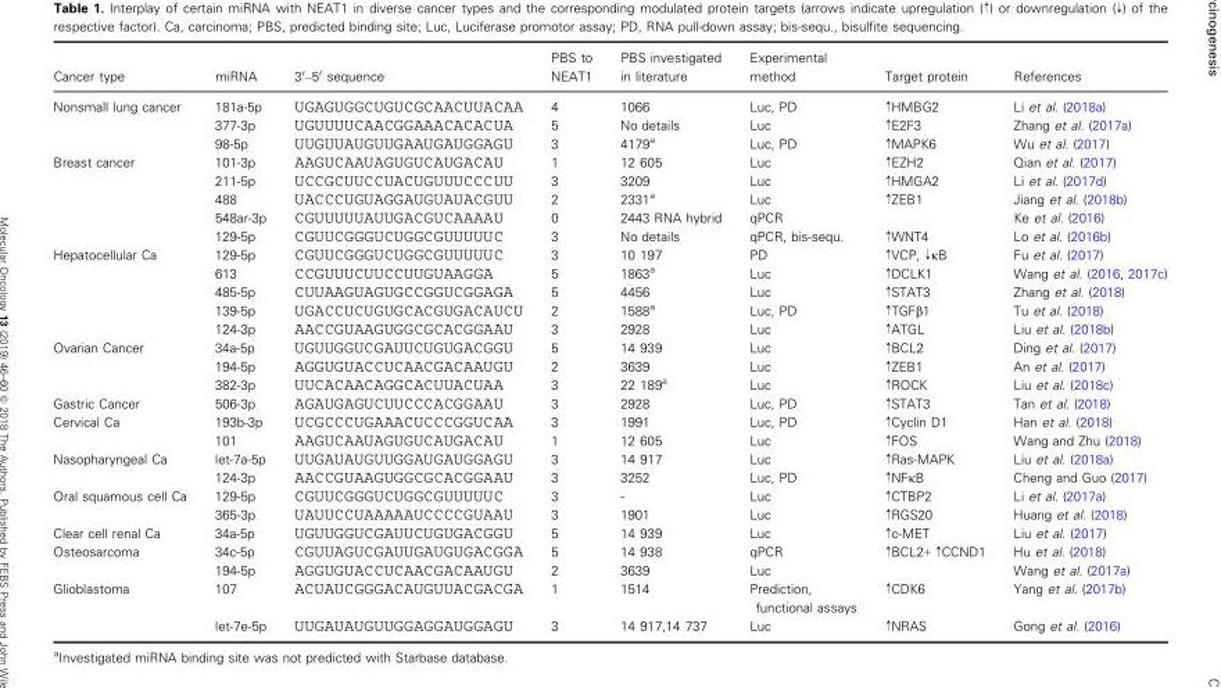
<table><thead><tr><td>Cancer type</td><td>miRNA</td><td>3′–5′ sequence</td><td>PBS to NEAT1</td><td>PBS investigated in literature</td><td>Experimental method</td><td>Target protein</td><td>References</td></tr></thead><tbody><tr><td rowspan="3">Nonsmall lung cancer</td><td>181a-5p</td><td>UGAGUGGCUGUCGCAACUUACAA</td><td>4</td><td>1066</td><td>Luc, PD</td><td>↑HMBG2</td><td>Li et al. (2018a)</td></tr><tr><td>377-3p</td><td>UGUUUUCAACGGAAACACACUA</td><td>5</td><td>No details</td><td>Luc</td><td>↑E2F3</td><td>Zhang et al. (2017a)</td></tr><tr><td>98-5p</td><td>UUGUUAUGUUGAAUGAUGGAGU</td><td>3</td><td>4179<sup>a</sup></td><td>Luc, PD</td><td>↑MAPK6</td><td>Wu et al. (2017)</td></tr><tr><td rowspan="5">Breast cancer</td><td>101-3p</td><td>AAGUCAAUAGUGUCAUGACAU</td><td>1</td><td>12 605</td><td>Luc</td><td>↑EZH2</td><td>Qian et al. (2017)</td></tr><tr><td>211-5p</td><td>UCCGCUUCCUACUGUUUCCCUU</td><td>3</td><td>3209</td><td>Luc</td><td>↑HMGA2</td><td>Li et al. (2017d)</td></tr><tr><td>488</td><td>UACCCUGUAGGAUGUAUACGUU</td><td>2</td><td>2331<sup>a</sup></td><td>Luc</td><td>↑ZEB1</td><td>Jiang et al. (2018b)</td></tr><tr><td>548ar-3p</td><td>CGUUUUUAUUGACGUCAAAAU</td><td>0</td><td>2443 RNA hybrid</td><td>qPCR</td><td></td><td>Ke et al. (2016)</td></tr><tr><td>129-5p</td><td>CGUUCGGGUCUGGCGUUUUUC</td><td>3</td><td>No details</td><td>qPCR, bis-sequ.</td><td>↑WNT4</td><td>Lo et al. (2016b)</td></tr><tr><td rowspan="5">Hepatocellular Ca</td><td>129-5p</td><td>CGUUCGGGUCUGGCGUUUUUC</td><td>3</td><td>10 197</td><td>PD</td><td>↑VCP, ↓κB</td><td>Fu et al. (2017)</td></tr><tr><td>613</td><td>CCGUUUCUUCCUUGUAAGGA</td><td>5</td><td>1863<sup>a</sup></td><td>Luc</td><td>↑DCLK1</td><td>Wang et al. (2016, 2017c)</td></tr><tr><td>485-5p</td><td>CUUAAGUAGUGCCGGUCGGAGA</td><td>5</td><td>4456</td><td>Luc</td><td>↑STAT3</td><td>Zhang et al. (2018)</td></tr><tr><td>139-5p</td><td>UGACCUCUGUGCACGUGACAUCU</td><td>2</td><td>1588<sup>a</sup></td><td>Luc, PD</td><td>↑TGFβ1</td><td>Tu et al. (2018)</td></tr><tr><td>124-3p</td><td>AACCGUAAGUGGCGCACGGAAU</td><td>3</td><td>2928</td><td>Luc</td><td>↑ATGL</td><td>Liu et al. (2018b)</td></tr><tr><td rowspan="3">Ovarian Cancer</td><td>34a-5p</td><td>UGUUGGUCGAUUCUGUGACGGU</td><td>5</td><td>14 939</td><td>Luc</td><td>↑BCL2</td><td>Ding et al. (2017)</td></tr><tr><td>194-5p</td><td>AGGUGUACCUCAACGACAAUGU</td><td>2</td><td>3639</td><td>Luc</td><td>↑ZEB1</td><td>An et al. (2017)</td></tr><tr><td>382-3p</td><td>UUCACAACAGGCACUUACUAA</td><td>3</td><td>22 189<sup>a</sup></td><td>Luc</td><td>↑ROCK</td><td>Liu et al. (2018c)</td></tr><tr><td>Gastric Cancer</td><td>506-3p</td><td>AGAUGAGUCUUCCCACGGAAU</td><td>3</td><td>2928</td><td>Luc, PD</td><td>↑STAT3</td><td>Tan et al. (2018)</td></tr><tr><td rowspan="2">Cervical Ca</td><td>193b-3p</td><td>UCGCCCUGAAACUCCCGGUCAA</td><td>3</td><td>1991</td><td>Luc, PD</td><td>↑Cyclin D1</td><td>Han et al. (2018)</td></tr><tr><td>101</td><td>AAGUCAAUAGUGUCAUGACAU</td><td>1</td><td>12 605</td><td>Luc</td><td>↑FOS</td><td>Wang and Zhu (2018)</td></tr><tr><td rowspan="2">Nasopharyngeal Ca</td><td>let-7a-5p</td><td>UUGAUAUGUUGGAUGAUGGAGU</td><td>3</td><td>14 917</td><td>Luc</td><td>↑Ras-MAPK</td><td>Liu et al. (2018a)</td></tr><tr><td>124-3p</td><td>AACCGUAAGUGGCGCACGGAAU</td><td>3</td><td>3252</td><td>Luc, PD</td><td>↑NFκB</td><td>Cheng and Guo (2017)</td></tr><tr><td rowspan="2">Oral squamous cell Ca</td><td>129-5p</td><td>CGUUCGGGUCUGGCGUUUUUC</td><td>3</td><td>-</td><td>Luc</td><td>↑CTBP2</td><td>Li et al. (2017a)</td></tr><tr><td>365-3p</td><td>UAUUCCUAAAAAUCCCCGUAAU</td><td>3</td><td>1901</td><td>Luc</td><td>↑RGS20</td><td>Huang et al. (2018)</td></tr><tr><td>Clear cell renal Ca</td><td>34a-5p</td><td>UGUUGGUCGAUUCUGUGACGGU</td><td>5</td><td>14 939</td><td>Luc</td><td>↑c-MET</td><td>Liu et al. (2017)</td></tr><tr><td rowspan="2">Osteosarcoma</td><td>34c-5p</td><td>CGUUAGUCGAUUGAUGUGACGGA</td><td>5</td><td>14 938</td><td>qPCR</td><td>↑BCL2+ ↑CCND1</td><td>Hu et al. (2018)</td></tr><tr><td>194-5p</td><td>AGGUGUACCUCAACGACAAUGU</td><td>2</td><td>3639</td><td>Luc</td><td></td><td>Wang et al. (2017a)</td></tr><tr><td rowspan="2">Glioblastoma</td><td>107</td><td>ACUAUCGGGACAUGUUACGACGA</td><td>1</td><td>1514</td><td>Prediction, functional assays</td><td>↑CDK6</td><td>Yang et al. (2017b)</td></tr><tr><td>let-7e-5p</td><td>UUGAUAUGUUGGAGGAUGGAGU</td><td>3</td><td>14 917,14 737</td><td>Luc</td><td>↑NRAS</td><td>Gong et al. (2016)</td></tr></tbody></table>